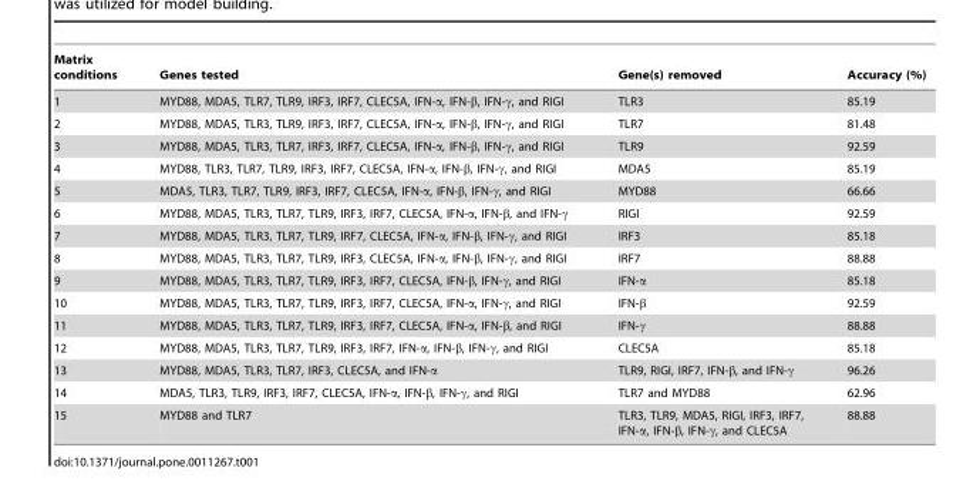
<table><thead><tr><td>Matrix conditions</td><td>Genes tested</td><td>Gene(s) removed</td><td>Accuracy (%)</td></tr></thead><tbody><tr><td>1</td><td>MYD88, MDA5, TLR7, TLR9, IRF3, IRF7, CLEC5A, IFN-α, IFN-β, IFN-γ, and RIGI</td><td>TLR3</td><td>85.19</td></tr><tr><td>2</td><td>MYD88, MDA5, TLR3, TLR9, IRF3, IRF7, CLEC5A, IFN-α, IFN-β, IFN-γ, and RIGI</td><td>TLR7</td><td>81.48</td></tr><tr><td>3</td><td>MYD88, MDA5, TLR3, TLR7, IRF3, IRF7, CLEC5A, IFN-α, IFN-β, IFN-γ, and RIGI</td><td>TLR9</td><td>92.59</td></tr><tr><td>4</td><td>MYD88, TLR3, TLR7, TLR9, IRF3, IRF7, CLEC5A, IFN-α, IFN-β, IFN-γ, and RIGI</td><td>MDA5</td><td>85.19</td></tr><tr><td>5</td><td>MDA5, TLR3, TLR7, TLR9, IRF3, IRF7, CLEC5A, IFN-α, IFN-β, IFN-γ, and RIGI</td><td>MYD88</td><td>66.66</td></tr><tr><td>6</td><td>MYD88, MDA5, TLR3, TLR7, TLR9, IRF3, IRF7, CLEC5A, IFN-α, IFN-β, and IFN-γ</td><td>RIGI</td><td>92.59</td></tr><tr><td>7</td><td>MYD88, MDA5, TLR3, TLR7, TLR9, IRF7, CLEC5A, IFN-α, IFN-β, IFN-γ, and RIGI</td><td>IRF3</td><td>85.18</td></tr><tr><td>8</td><td>MYD88, MDA5, TLR3, TLR7, TLR9, IRF3, CLEC5A, IFN-α, IFN-β, IFN-γ, and RIGI</td><td>IRF7</td><td>88.88</td></tr><tr><td>9</td><td>MYD88, MDA5, TLR3, TLR7, TLR9, IRF3, IRF7, CLEC5A, IFN-β, IFN-γ, and RIGI</td><td>IFN-α</td><td>85.18</td></tr><tr><td>10</td><td>MYD88, MDA5, TLR3, TLR7, TLR9, IRF3, IRF7, CLEC5A, IFN-α, IFN-γ, and RIGI</td><td>IFN-β</td><td>92.59</td></tr><tr><td>11</td><td>MYD88, MDA5, TLR3, TLR7, TLR9, IRF3, IRF7, CLEC5A, IFN-α, IFN-β, and RIGI</td><td>IFN-γ</td><td>88.88</td></tr><tr><td>12</td><td>MYD88, MDA5, TLR3, TLR7, TLR9, IRF3, IRF7, IFN-α, IFN-β, IFN-γ, and RIGI</td><td>CLEC5A</td><td>85.18</td></tr><tr><td>13</td><td>MYD88, MDA5, TLR3, TLR7, IRF3, CLEC5A, and IFN-α</td><td>TLR9, RIGI, IRF7, IFN-β, and IFN-γ</td><td>96.26</td></tr><tr><td>14</td><td>MDA5, TLR3, TLR9, IRF3, IRF7, CLEC5A, IFN-α, IFN-β, IFN-γ, and RIGI</td><td>TLR7 and MYD88</td><td>62.96</td></tr><tr><td>15</td><td>MYD88 and TLR7</td><td>TLR3, TLR9, MDA5, RIGI, IRF3, IRF7, IFN-α, IFN-β, IFN-γ, and CLEC5A</td><td>88.88</td></tr></tbody></table>